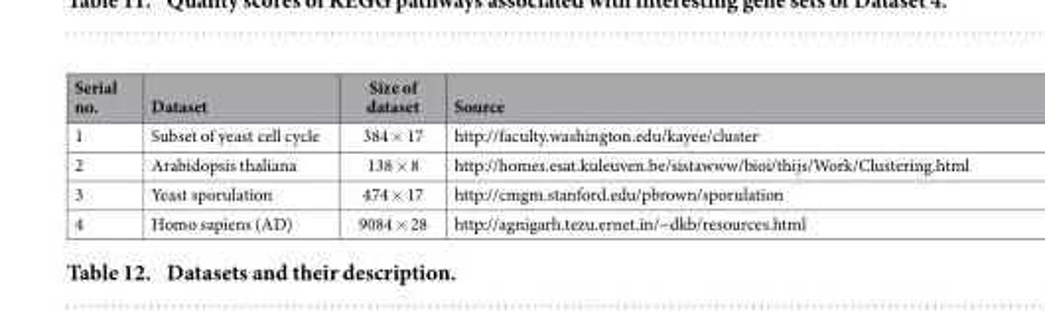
<table><thead><tr><td>Serial no.</td><td>Dataset</td><td>Size of dataset</td><td>Source</td></tr></thead><tbody><tr><td>1</td><td>Subset of yeast cell cycle</td><td>384 × 17</td><td>http://faculty.washington.edu/kayee/cluster</td></tr><tr><td>2</td><td>Arabidopsis thaliana</td><td>138 × 8</td><td>http://homes.esat.kuleuven.be/sistawww/bioi/thijs/Work/Clustering.html</td></tr><tr><td>3</td><td>Yeast sporulation</td><td>474 × 17</td><td>http://cmgm.stanford.edu/pbrown/sporulation</td></tr><tr><td>4</td><td>Homo sapiens (AD)</td><td>9084 × 28</td><td>http://agnigarh.tezu.ernet.in/~dkb/resources.html</td></tr></tbody></table>